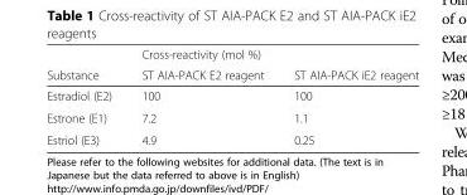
<table><thead><tr><td rowspan="2">Substance</td><td colspan="2">Cross-reactivity (mol %)</td></tr><tr><td>ST AIA-PACK E2 reagent</td><td>ST AIA-PACK iE2 reagent</td></tr></thead><tbody><tr><td>Estradiol (E2)</td><td>100</td><td>100</td></tr><tr><td>Estrone (E1)</td><td>7.2</td><td>1.1</td></tr><tr><td>Estriol (E3)</td><td>4.9</td><td>0.25</td></tr></tbody></table>